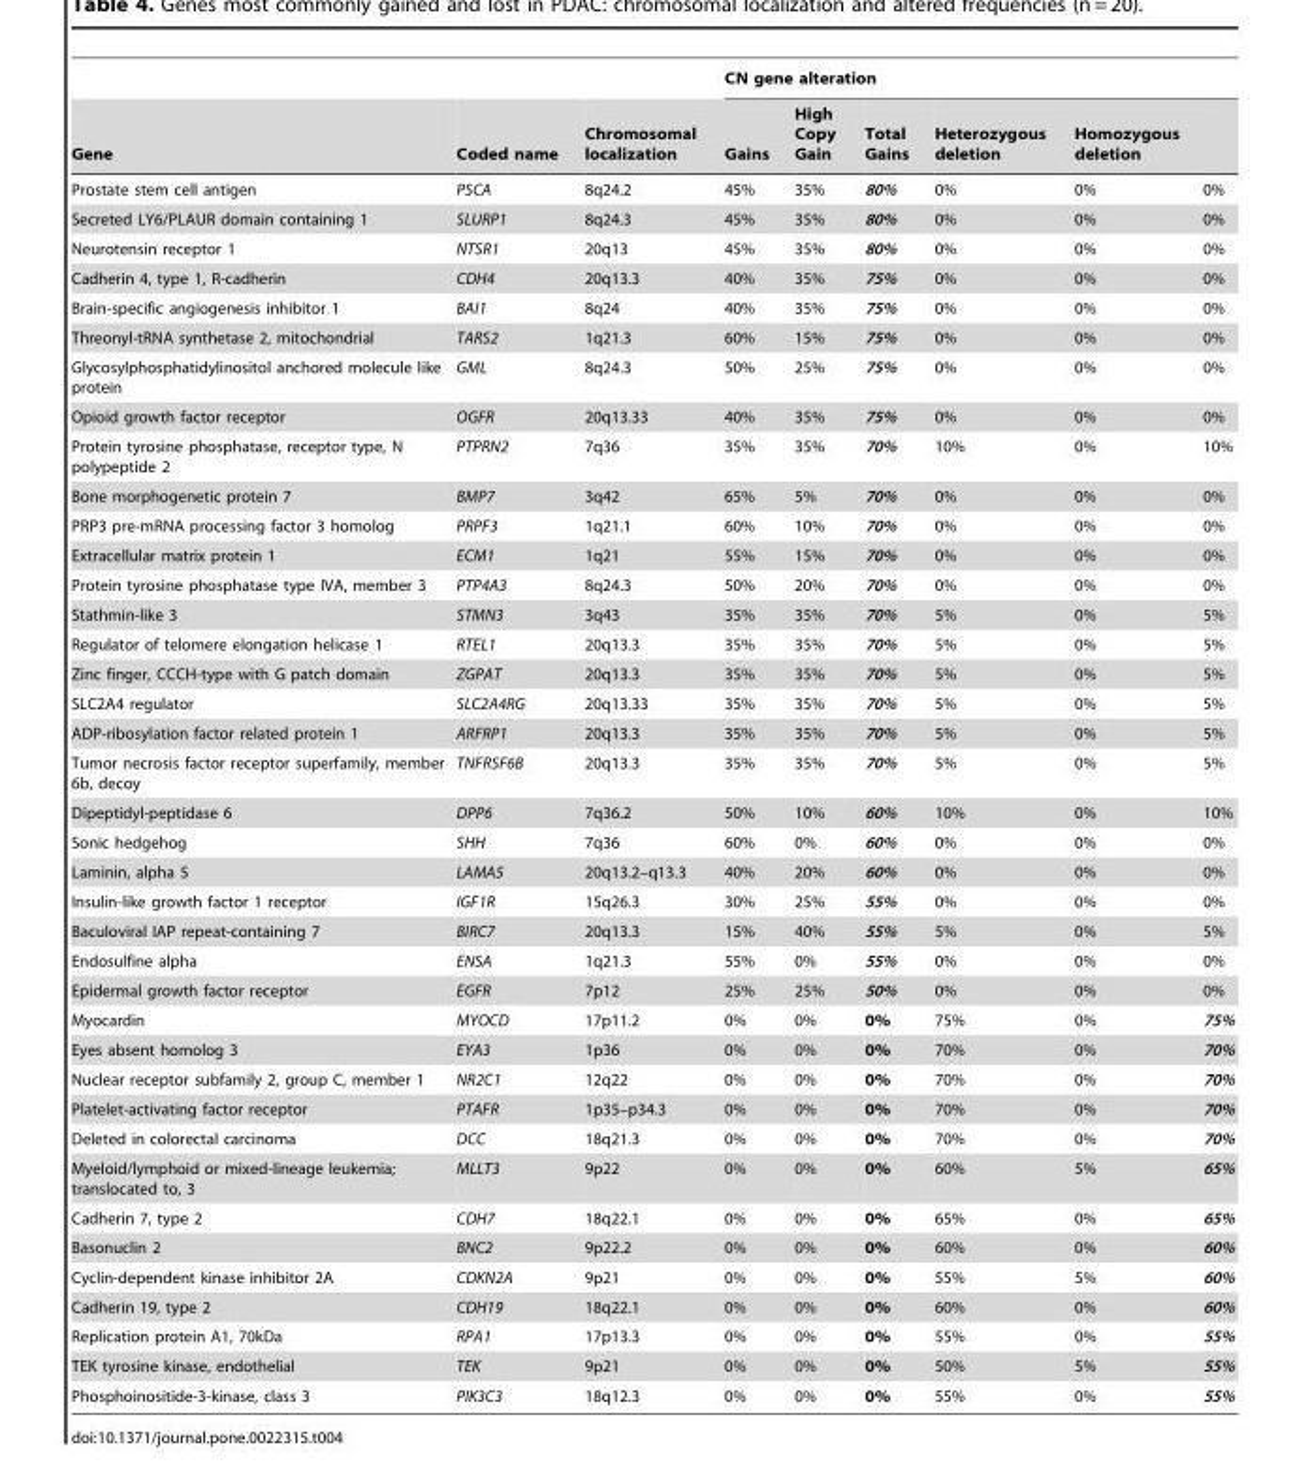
<table><thead><tr><td rowspan="2">Gene</td><td rowspan="2">Coded name</td><td rowspan="2">Chromosomal localization</td><td colspan="6">CN gene alteration</td></tr><tr><td>Gains</td><td>High Copy Gain</td><td>Total Gains</td><td>Heterozygous deletion</td><td>Homozygous deletion</td><td></td></tr></thead><tbody><tr><td>Prostate stem cell antigen</td><td>PSCA</td><td>8q24.2</td><td>45%</td><td>35%</td><td>80%</td><td>0%</td><td>0%</td><td>0%</td></tr><tr><td>Secreted LY6/PLAUR domain containing 1</td><td>SLURP1</td><td>8q24.3</td><td>45%</td><td>35%</td><td>80%</td><td>0%</td><td>0%</td><td>0%</td></tr><tr><td>Neurotensin receptor 1</td><td>NTSR1</td><td>20q13</td><td>45%</td><td>35%</td><td>80%</td><td>0%</td><td>0%</td><td>0%</td></tr><tr><td>Cadherin 4, type 1, R-cadherin</td><td>CDH4</td><td>20q13.3</td><td>40%</td><td>35%</td><td>75%</td><td>0%</td><td>0%</td><td>0%</td></tr><tr><td>Brain-specific angiogenesis inhibitor 1</td><td>BAI1</td><td>8q24</td><td>40%</td><td>35%</td><td>75%</td><td>0%</td><td>0%</td><td>0%</td></tr><tr><td>Threonyl-tRNA synthetase 2, mitochondrial</td><td>TARS2</td><td>1q21.3</td><td>60%</td><td>15%</td><td>75%</td><td>0%</td><td>0%</td><td>0%</td></tr><tr><td>Glycosylphosphatidylinositol anchored molecule like protein</td><td>GML</td><td>8q24.3</td><td>50%</td><td>25%</td><td>75%</td><td>0%</td><td>0%</td><td>0%</td></tr><tr><td>Opioid growth factor receptor</td><td>OGFR</td><td>20q13.33</td><td>40%</td><td>35%</td><td>75%</td><td>0%</td><td>0%</td><td>0%</td></tr><tr><td>Protein tyrosine phosphatase, receptor type, N polypeptide 2</td><td>PTPRN2</td><td>7q36</td><td>35%</td><td>35%</td><td>70%</td><td>10%</td><td>0%</td><td>10%</td></tr><tr><td>Bone morphogenetic protein 7</td><td>BMP7</td><td>3q42</td><td>65%</td><td>5%</td><td>70%</td><td>0%</td><td>0%</td><td>0%</td></tr><tr><td>PRP3 pre-mRNA processing factor 3 homolog</td><td>PRPF3</td><td>1q21.1</td><td>60%</td><td>10%</td><td>70%</td><td>0%</td><td>0%</td><td>0%</td></tr><tr><td>Extracellular matrix protein 1</td><td>ECM1</td><td>1q21</td><td>55%</td><td>15%</td><td>70%</td><td>0%</td><td>0%</td><td>0%</td></tr><tr><td>Protein tyrosine phosphatase type IVA, member 3</td><td>PTP4A3</td><td>8q24.3</td><td>50%</td><td>20%</td><td>70%</td><td>0%</td><td>0%</td><td>0%</td></tr><tr><td>Stathmin-like 3</td><td>STMN3</td><td>3q43</td><td>35%</td><td>35%</td><td>70%</td><td>5%</td><td>0%</td><td>5%</td></tr><tr><td>Regulator of telomere elongation helicase 1</td><td>RTEL1</td><td>20q13.3</td><td>35%</td><td>35%</td><td>70%</td><td>5%</td><td>0%</td><td>5%</td></tr><tr><td>Zinc finger, CCCH-type with G patch domain</td><td>ZGPAT</td><td>20q13.3</td><td>35%</td><td>35%</td><td>70%</td><td>5%</td><td>0%</td><td>5%</td></tr><tr><td>SLC2A4 regulator</td><td>SLC2A4RG</td><td>20q13.33</td><td>35%</td><td>35%</td><td>70%</td><td>5%</td><td>0%</td><td>5%</td></tr><tr><td>ADP-ribosylation factor related protein 1</td><td>ARFRP1</td><td>20q13.3</td><td>35%</td><td>35%</td><td>70%</td><td>5%</td><td>0%</td><td>5%</td></tr><tr><td>Tumor necrosis factor receptor superfamily, member 6b, decoy</td><td>TNFRSF6B</td><td>20q13.3</td><td>35%</td><td>35%</td><td>70%</td><td>5%</td><td>0%</td><td>5%</td></tr><tr><td>Dipeptidyl-peptidase 6</td><td>DPP6</td><td>7q36.2</td><td>50%</td><td>10%</td><td>60%</td><td>10%</td><td>0%</td><td>10%</td></tr><tr><td>Sonic hedgehog</td><td>SHH</td><td>7q36</td><td>60%</td><td>0%</td><td>60%</td><td>0%</td><td>0%</td><td>0%</td></tr><tr><td>Laminin, alpha 5</td><td>LAMA5</td><td>20q13.2–q13.3</td><td>40%</td><td>20%</td><td>60%</td><td>0%</td><td>0%</td><td>0%</td></tr><tr><td>Insulin-like growth factor 1 receptor</td><td>IGF1R</td><td>15q26.3</td><td>30%</td><td>25%</td><td>55%</td><td>0%</td><td>0%</td><td>0%</td></tr><tr><td>Baculoviral IAP repeat-containing 7</td><td>BIRC7</td><td>20q13.3</td><td>15%</td><td>40%</td><td>55%</td><td>5%</td><td>0%</td><td>5%</td></tr><tr><td>Endosulfine alpha</td><td>ENSA</td><td>1q21.3</td><td>55%</td><td>0%</td><td>55%</td><td>0%</td><td>0%</td><td>0%</td></tr><tr><td>Epidermal growth factor receptor</td><td>EGFR</td><td>7p12</td><td>25%</td><td>25%</td><td>50%</td><td>0%</td><td>0%</td><td>0%</td></tr><tr><td>Myocardin</td><td>MYOCD</td><td>17p11.2</td><td>0%</td><td>0%</td><td>0%</td><td>75%</td><td>0%</td><td>75%</td></tr><tr><td>Eyes absent homolog 3</td><td>EYA3</td><td>1p36</td><td>0%</td><td>0%</td><td>0%</td><td>70%</td><td>0%</td><td>70%</td></tr><tr><td>Nuclear receptor subfamily 2, group C, member 1</td><td>NR2C1</td><td>12q22</td><td>0%</td><td>0%</td><td>0%</td><td>70%</td><td>0%</td><td>70%</td></tr><tr><td>Platelet-activating factor receptor</td><td>PTAFR</td><td>1p35–p34.3</td><td>0%</td><td>0%</td><td>0%</td><td>70%</td><td>0%</td><td>70%</td></tr><tr><td>Deleted in colorectal carcinoma</td><td>DCC</td><td>18q21.3</td><td>0%</td><td>0%</td><td>0%</td><td>70%</td><td>0%</td><td>70%</td></tr><tr><td>Myeloid/lymphoid or mixed-lineage leukemia; translocated to, 3</td><td>MLLT3</td><td>9p22</td><td>0%</td><td>0%</td><td>0%</td><td>60%</td><td>5%</td><td>65%</td></tr><tr><td>Cadherin 7, type 2</td><td>CDH7</td><td>18q22.1</td><td>0%</td><td>0%</td><td>0%</td><td>65%</td><td>0%</td><td>65%</td></tr><tr><td>Basonuclin 2</td><td>BNC2</td><td>9p22.2</td><td>0%</td><td>0%</td><td>0%</td><td>60%</td><td>0%</td><td>60%</td></tr><tr><td>Cyclin-dependent kinase inhibitor 2A</td><td>CDKN2A</td><td>9p21</td><td>0%</td><td>0%</td><td>0%</td><td>55%</td><td>5%</td><td>60%</td></tr><tr><td>Cadherin 19, type 2</td><td>CDH19</td><td>18q22.1</td><td>0%</td><td>0%</td><td>0%</td><td>60%</td><td>0%</td><td>60%</td></tr><tr><td>Replication protein A1, 70kDa</td><td>RPA1</td><td>17p13.3</td><td>0%</td><td>0%</td><td>0%</td><td>55%</td><td>0%</td><td>55%</td></tr><tr><td>TEK tyrosine kinase, endothelial</td><td>TEK</td><td>9p21</td><td>0%</td><td>0%</td><td>0%</td><td>50%</td><td>5%</td><td>55%</td></tr><tr><td>Phosphoinositide-3-kinase, class 3</td><td>PIK3C3</td><td>18q12.3</td><td>0%</td><td>0%</td><td>0%</td><td>55%</td><td>0%</td><td>55%</td></tr></tbody></table>